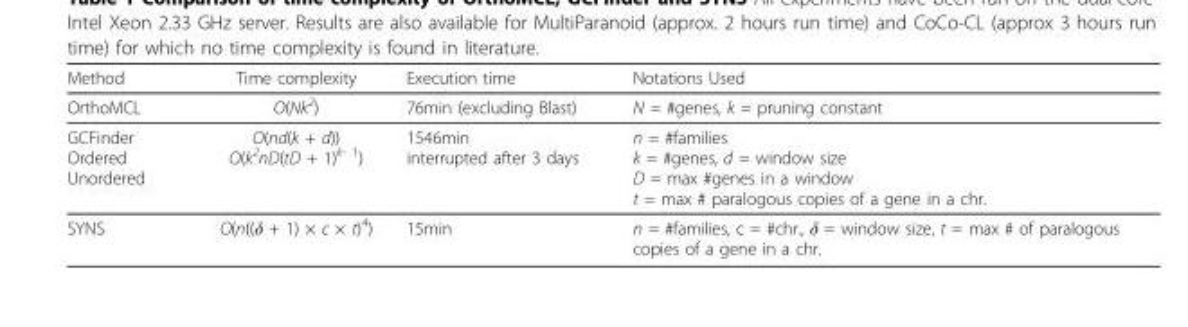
<table><thead><tr><td>Method</td><td>Time complexity</td><td>Execution time</td><td>Notations Used</td></tr></thead><tbody><tr><td>OrthoMCL</td><td>O(Nk<sup>2</sup>)</td><td>76min (excluding Blast)</td><td>N = #genes, k = pruning constant</td></tr><tr><td>GCFinder Ordered Unordered</td><td>O(nd(k + d)) O(k<sup>2</sup>nD(tD + 1)<sup>k- 1</sup>)</td><td>1546min interrupted after 3 days</td><td>n = #families k = #genes, d = window size D = max #genes in a window t = max # paralogous copies of a gene in a chr.</td></tr><tr><td>SYNS</td><td>O(n((δ + 1) × c × t)<sup>4</sup>)</td><td>15min</td><td>n = #families, c = #chr., δ = window size, t = max # of paralogous copies of a gene in a chr.</td></tr></tbody></table>